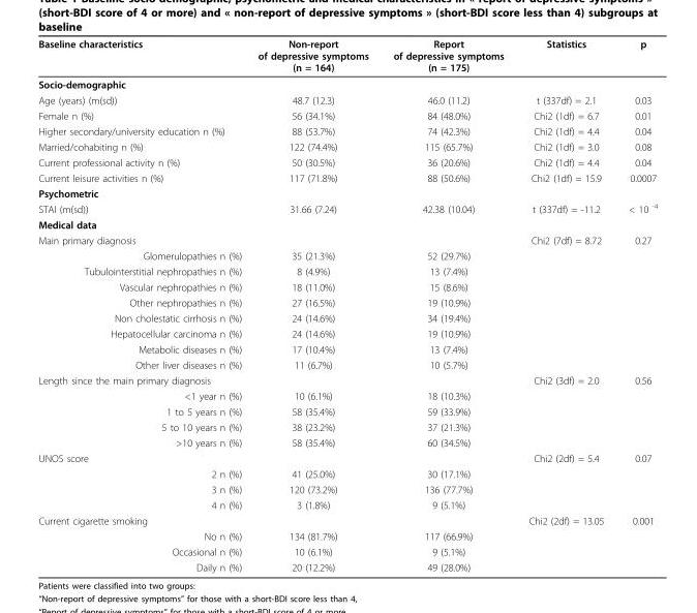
<table><thead><tr><td>Baseline characteristics</td><td>Non-report of depressive symptoms (n = 164)</td><td>Report of depressive symptoms (n = 175)</td><td>Statistics</td><td>p</td></tr></thead><tbody><tr><td colspan="5">Socio-demographic</td></tr><tr><td>Age (years) (m(sd))</td><td>48.7 (12.3)</td><td>46.0 (11.2)</td><td>t (337df) = 2.1</td><td>0.03</td></tr><tr><td>Female n (%)</td><td>56 (34.1%)</td><td>84 (48.0%)</td><td>Chi2 (1df) = 6.7</td><td>0.01</td></tr><tr><td>Higher secondary/university education n (%)</td><td>88 (53.7%)</td><td>74 (42.3%)</td><td>Chi2 (1df) = 4.4</td><td>0.04</td></tr><tr><td>Married/cohabiting n (%)</td><td>122 (74.4%)</td><td>115 (65.7%)</td><td>Chi2 (1df) = 3.0</td><td>0.08</td></tr><tr><td>Current professional activity n (%)</td><td>50 (30.5%)</td><td>36 (20.6%)</td><td>Chi2 (1df) = 4.4</td><td>0.04</td></tr><tr><td>Current leisure activities n (%)</td><td>117 (71.8%)</td><td>88 (50.6%)</td><td>Chi2 (1df) = 15.9</td><td>0.0007</td></tr><tr><td colspan="5">Psychometric</td></tr><tr><td>STAI (m(sd))</td><td>31.66 (7.24)</td><td>42.38 (10.04)</td><td>t (337df) = -11.2</td><td>&lt; 10 <sup>-4</sup></td></tr><tr><td colspan="5">Medical data</td></tr><tr><td>Main primary diagnosis</td><td></td><td></td><td>Chi2 (7df) = 8.72</td><td>0.27</td></tr><tr><td>Glomerulopathies n (%)</td><td>35 (21.3%)</td><td>52 (29.7%)</td><td></td><td></td></tr><tr><td>Tubulointerstitial nephropathies n (%)</td><td>8 (4.9%)</td><td>13 (7.4%)</td><td></td><td></td></tr><tr><td>Vascular nephropathies n (%)</td><td>18 (11.0%)</td><td>15 (8.6%)</td><td></td><td></td></tr><tr><td>Other nephropathies n (%)</td><td>27 (16.5%)</td><td>19 (10.9%)</td><td></td><td></td></tr><tr><td>Non cholestatic cirrhosis n (%)</td><td>24 (14.6%)</td><td>34 (19.4%)</td><td></td><td></td></tr><tr><td>Hepatocellular carcinoma n (%)</td><td>24 (14.6%)</td><td>19 (10.9%)</td><td></td><td></td></tr><tr><td>Metabolic diseases n (%)</td><td>17 (10.4%)</td><td>13 (7.4%)</td><td></td><td></td></tr><tr><td>Other liver diseases n (%)</td><td>11 (6.7%)</td><td>10 (5.7%)</td><td></td><td></td></tr><tr><td>Length since the main primary diagnosis</td><td></td><td></td><td>Chi2 (3df) = 2.0</td><td>0.56</td></tr><tr><td>&lt;1 year n (%)</td><td>10 (6.1%)</td><td>18 (10.3%)</td><td></td><td></td></tr><tr><td>1 to 5 years n (%)</td><td>58 (35.4%)</td><td>59 (33.9%)</td><td></td><td></td></tr><tr><td>5 to 10 years n (%)</td><td>38 (23.2%)</td><td>37 (21.3%)</td><td></td><td></td></tr><tr><td>&gt;10 years n (%)</td><td>58 (35.4%)</td><td>60 (34.5%)</td><td></td><td></td></tr><tr><td>UNOS score</td><td></td><td></td><td>Chi2 (2df) = 5.4</td><td>0.07</td></tr><tr><td>2 n (%)</td><td>41 (25.0%)</td><td>30 (17.1%)</td><td></td><td></td></tr><tr><td>3 n (%)</td><td>120 (73.2%)</td><td>136 (77.7%)</td><td></td><td></td></tr><tr><td>4 n (%)</td><td>3 (1.8%)</td><td>9 (5.1%)</td><td></td><td></td></tr><tr><td>Current cigarette smoking</td><td></td><td></td><td>Chi2 (2df) = 13.05</td><td>0.001</td></tr><tr><td>No n (%)</td><td>134 (81.7%)</td><td>117 (66.9%)</td><td></td><td></td></tr><tr><td>Occasional n (%)</td><td>10 (6.1%)</td><td>9 (5.1%)</td><td></td><td></td></tr><tr><td>Daily n (%)</td><td>20 (12.2%)</td><td>49 (28.0%)</td><td></td><td></td></tr></tbody></table>